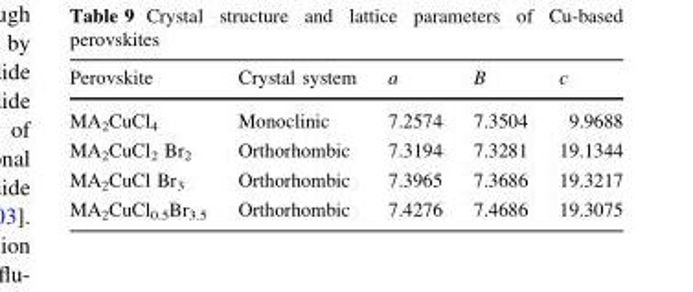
<table><thead><tr><td>Perovskite</td><td>Crystal system</td><td>a</td><td>B</td><td>c</td></tr></thead><tbody><tr><td>MA<sub>2</sub>CuCl<sub>4</sub></td><td>Monoclinic</td><td>7.2574</td><td>7.3504</td><td>9.9688</td></tr><tr><td>MA<sub>2</sub>CuCl<sub>2</sub> Br<sub>2</sub></td><td>Orthorhombic</td><td>7.3194</td><td>7.3281</td><td>19.1344</td></tr><tr><td>MA<sub>2</sub>CuCl Br<sub>3</sub></td><td>Orthorhombic</td><td>7.3965</td><td>7.3686</td><td>19.3217</td></tr><tr><td>MA<sub>2</sub>CuCl<sub>0.5</sub>Br<sub>3.5</sub></td><td>Orthorhombic</td><td>7.4276</td><td>7.4686</td><td>19.3075</td></tr></tbody></table>